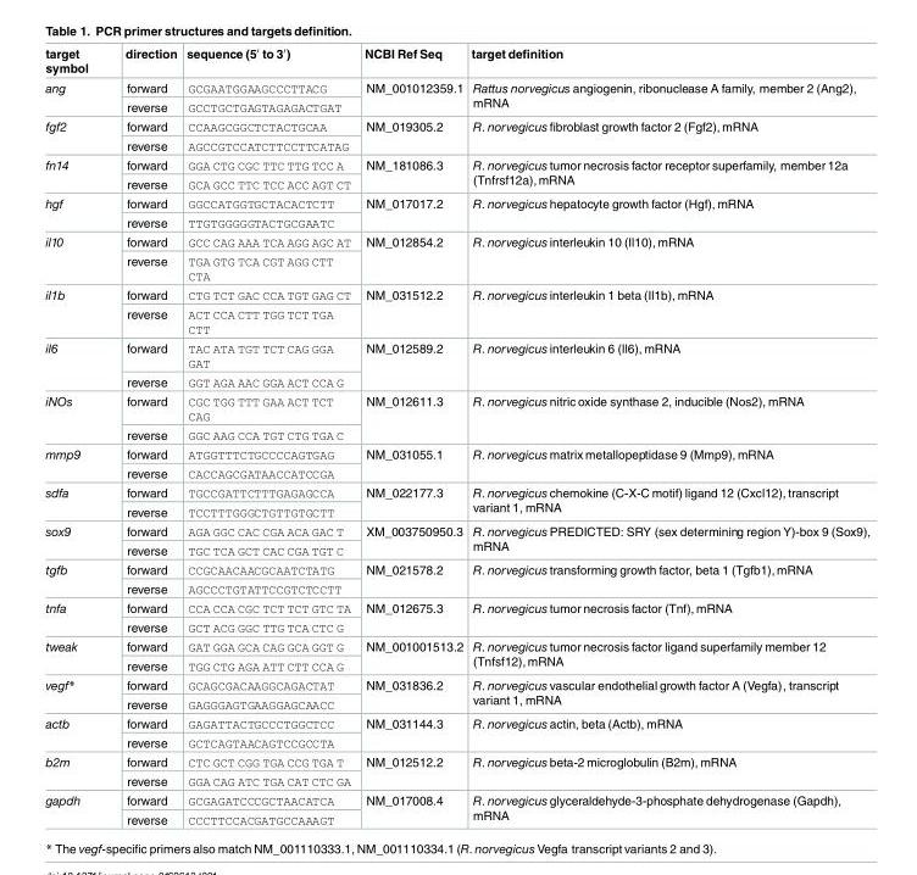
<table><thead><tr><td>target symbol</td><td>direction</td><td>sequence (5′ to 3′)</td><td>NCBI Ref Seq</td><td>target definition</td></tr></thead><tbody><tr><td rowspan="2">ang</td><td>forward</td><td>GCGAATGGAAGCCCTTACG</td><td rowspan="2">NM_001012359.1</td><td rowspan="2">Rattus norvegicus angiogenin, ribonuclease A family, member 2 (Ang2), mRNA</td></tr><tr><td>reverse</td><td>GCCTGCTGAGTAGAGACTGAT</td></tr><tr><td rowspan="2">fgf2</td><td>forward</td><td>CCAAGCGGCTCTACTGCAA</td><td rowspan="2">NM_019305.2</td><td rowspan="2">R. norvegicus fibroblast growth factor 2 (Fgf2), mRNA</td></tr><tr><td>reverse</td><td>AGCCGTCCATCTTCCTTCATAG</td></tr><tr><td rowspan="2">fn14</td><td>forward</td><td>GGA CTG CGC TTC TTG TCC A</td><td rowspan="2">NM_181086.3</td><td rowspan="2">R. norvegicus tumor necrosis factor receptor superfamily, member 12a (Tnfrsf12a),mRNA</td></tr><tr><td>reverse</td><td>GCA GCC TTC TCC ACC AGT CT</td></tr><tr><td rowspan="2">hgf</td><td>forward</td><td>GGCCATGGTGCTACACTCTT</td><td rowspan="2">NM_017017.2</td><td rowspan="2">R. norvegicus hepatocyte growth factor (Hgf), mRNA</td></tr><tr><td>reverse</td><td>TTGTGGGGGTACTGCGAATC</td></tr><tr><td rowspan="2">il10</td><td>forward</td><td>GCC CAG AAA TCA AGG AGC AT</td><td rowspan="2">NM_012854.2</td><td rowspan="2">R. norvegicus interleukin 10 (Il10), mRNA</td></tr><tr><td>reverse</td><td>TGA GTG TCA CGT AGG CTT CTA</td></tr><tr><td rowspan="2">il1b</td><td>forward</td><td>CTG TCT GAC CCA TGT GAG CT</td><td rowspan="2">NM_031512.2</td><td rowspan="2">R. norvegicus interleukin 1 beta (Il1b), mRNA</td></tr><tr><td>reverse</td><td>ACT CCA CTT TGG TCT TGA CTT</td></tr><tr><td rowspan="2">il6</td><td>forward</td><td>TAC ATA TGT TCT CAG GGA GAT</td><td rowspan="2">NM_012589.2</td><td rowspan="2">R. norvegicus interleukin 6 (Il6), mRNA</td></tr><tr><td>reverse</td><td>GGT AGA AAC GGA ACT CCA G</td></tr><tr><td rowspan="2">iNOs</td><td>forward</td><td>CGC TGG TTT GAA ACT TCT CAG</td><td rowspan="2">NM_012611.3</td><td rowspan="2">R. norvegicus nitric oxide synthase 2, inducible (Nos2), mRNA</td></tr><tr><td>reverse</td><td>GGC AAG CCA TGT CTG TGA C</td></tr><tr><td rowspan="2">mmp9</td><td>forward</td><td>ATGGTTTCTGCCCCAGTGAG</td><td rowspan="2">NM_031055.1</td><td rowspan="2">R. norvegicus matrix metallopeptidase 9 (Mmp9), mRNA</td></tr><tr><td>reverse</td><td>CACCAGCGATAACCATCCGA</td></tr><tr><td rowspan="2">sdfa</td><td>forward</td><td>TGCCGATTCTTTGAGAGCCA</td><td rowspan="2">NM_022177.3</td><td rowspan="2">R. norvegicus chemokine (C-X-C motif) ligand 12 (Cxcl12), transcript variant 1, mRNA</td></tr><tr><td>reverse</td><td>TCCTTTGGGCTGTTGTGCTT</td></tr><tr><td rowspan="2">sox9</td><td>forward</td><td>AGA GGC CAC CGA ACA GAC T</td><td rowspan="2">XM_003750950.3</td><td rowspan="2">R. norvegicus PREDICTED: SRY (sex determining region Y)-box 9 (Sox9), mRNA</td></tr><tr><td>reverse</td><td>TGC TCA GCT CAC CGA TGT C</td></tr><tr><td rowspan="2">tgfb</td><td>forward</td><td>CCGCAACAACGCAATCTATG</td><td rowspan="2">NM_021578.2</td><td rowspan="2">R. norvegicus transforming growth factor, beta 1 (Tgfb1), mRNA</td></tr><tr><td>reverse</td><td>AGCCCTGTATTCCGTCTCCTT</td></tr><tr><td rowspan="2">tnfa</td><td>forward</td><td>CCA CCA CGC TCT TCT GTC TA</td><td rowspan="2">NM_012675.3</td><td rowspan="2">R. norvegicus tumor necrosis factor (Tnf), mRNA</td></tr><tr><td>reverse</td><td>GCT ACG GGC TTG TCA CTC G</td></tr><tr><td rowspan="2">tweak</td><td>forward</td><td>GAT GGA GCA CAG GCA GGT G</td><td rowspan="2">NM_001001513.2</td><td rowspan="2">R. norvegicus tumor necrosis factor ligand superfamily member 12 (Tnfsf12), mRNA</td></tr><tr><td>reverse</td><td>TGG CTG AGA ATT CTT CCA G</td></tr><tr><td rowspan="2">vegf*</td><td>forward</td><td>GCAGCGACAAGGCAGACTAT</td><td rowspan="2">NM_031836.2</td><td rowspan="2">R. norvegicus vascular endothelial growth factor A (Vegfa), transcript variant 1, mRNA</td></tr><tr><td>reverse</td><td>GAGGGAGTGAAGGAGCAACC</td></tr><tr><td rowspan="2">actb</td><td>forward</td><td>GAGATTACTGCCCTGGCTCC</td><td rowspan="2">NM_031144.3</td><td rowspan="2">R. norvegicus actin, beta (Actb), mRNA</td></tr><tr><td>reverse</td><td>GCTCAGTAACAGTCCGCCTA</td></tr><tr><td rowspan="2">b2m</td><td>forward</td><td>CTC GCT CGG TGA CCG TGA T</td><td rowspan="2">NM_012512.2</td><td rowspan="2">R. norvegicus beta-2 microglobulin (B2m), mRNA</td></tr><tr><td>reverse</td><td>GGA CAG ATC TGA CAT CTC GA</td></tr><tr><td rowspan="2">gapdh</td><td>forward</td><td>GCGAGATCCCGCTAACATCA</td><td rowspan="2">NM_017008.4</td><td rowspan="2">R. norvegicus glyceraldehyde-3-phosphate dehydrogenase (Gapdh), mRNA</td></tr><tr><td>reverse</td><td>CCCTTCCACGATGCCAAAGT</td></tr></tbody></table>